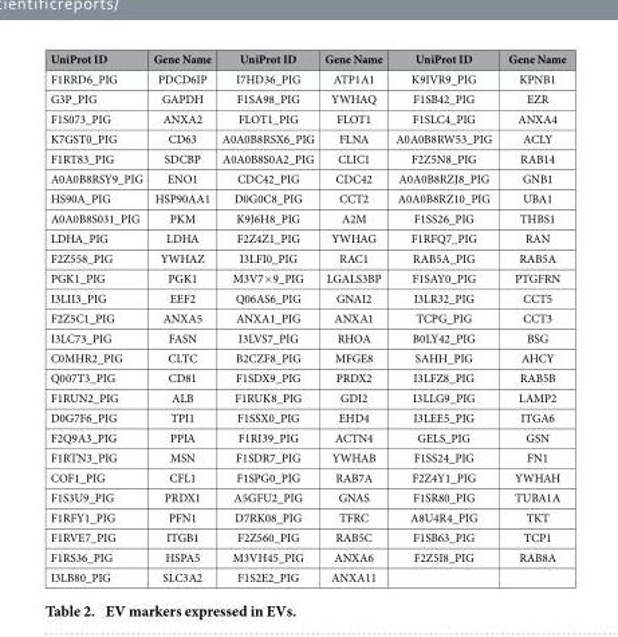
<table><thead><tr><td>UniProt ID</td><td>Gene Name</td><td>UniProt ID</td><td>Gene Name</td><td>UniProt ID</td><td>Gene Name</td></tr></thead><tbody><tr><td>F1RRD6_PIG</td><td>PDCD6IP</td><td>I7HD36_PIG</td><td>ATP1A1</td><td>K9IVR9_PIG</td><td>KPNB1</td></tr><tr><td>G3P_PIG</td><td>GAPDH</td><td>F1SA98_PIG</td><td>YWHAQ</td><td>F1SB42_PIG</td><td>EZR</td></tr><tr><td>F1S073_PIG</td><td>ANXA2</td><td>FLOT1_PIG</td><td>FLOT1</td><td>F1SLC4_PIG</td><td>ANXA4</td></tr><tr><td>K7GST0_PIG</td><td>CD63</td><td>A0A0B8RSX6_PIG</td><td>FLNA</td><td>A0A0B8RW53_PIG</td><td>ACLY</td></tr><tr><td>F1RT83_PIG</td><td>SDCBP</td><td>A0A0B8S0A2_PIG</td><td>CLIC1</td><td>F2Z5N8_PIG</td><td>RAB14</td></tr><tr><td>A0A0B8RSY9_PIG</td><td>ENO1</td><td>CDC42_PIG</td><td>CDC42</td><td>A0A0B8RZJ8_PIG</td><td>GNB1</td></tr><tr><td>HS90A_PIG</td><td>HSP90AA1</td><td>D0G0C8_PIG</td><td>CCT2</td><td>A0A0B8RZ10_PIG</td><td>UBA1</td></tr><tr><td>A0A0B8S031_PIG</td><td>PKM</td><td>K9J6H8_PIG</td><td>A2M</td><td>F1SS26_PIG</td><td>THBS1</td></tr><tr><td>LDHA_PIG</td><td>LDHA</td><td>F2Z4Z1_PIG</td><td>YWHAG</td><td>F1RFQ7_PIG</td><td>RAN</td></tr><tr><td>F2Z558_PIG</td><td>YWHAZ</td><td>I3LFI0_PIG</td><td>RAC1</td><td>RAB5A_PIG</td><td>RAB5A</td></tr><tr><td>PGK1_PIG</td><td>PGK1</td><td>M3V7× 9_PIG</td><td>LGALS3BP</td><td>F1SAY0_PIG</td><td>PTGFRN</td></tr><tr><td>I3LII3_PIG</td><td>EEF2</td><td>Q06AS6_PIG</td><td>GNAI2</td><td>I3LR32_PIG</td><td>CCT5</td></tr><tr><td>F2Z5C1_PIG</td><td>ANXA5</td><td>ANXA1_PIG</td><td>ANXA1</td><td>TCPG_PIG</td><td>CCT3</td></tr><tr><td>I3LC73_PIG</td><td>FASN</td><td>I3LVS7_PIG</td><td>RHOA</td><td>B0LY42_PIG</td><td>BSG</td></tr><tr><td>C0MHR2_PIG</td><td>CLTC</td><td>B2CZF8_PIG</td><td>MFGE8</td><td>SAHH_PIG</td><td>AHCY</td></tr><tr><td>Q007T3_PIG</td><td>CD81</td><td>F1SDX9_PIG</td><td>PRDX2</td><td>I3LFZ8_PIG</td><td>RAB5B</td></tr><tr><td>F1RUN2_PIG</td><td>ALB</td><td>F1RUK8_PIG</td><td>GDI2</td><td>I3LLG9_PIG</td><td>LAMP2</td></tr><tr><td>D0G7F6_PIG</td><td>TPI1</td><td>F1SSX0_PIG</td><td>EHD4</td><td>I3LEE5_PIG</td><td>ITGA6</td></tr><tr><td>F2Q9A3_PIG</td><td>PPIA</td><td>F1RI39_PIG</td><td>ACTN4</td><td>GELS_PIG</td><td>GSN</td></tr><tr><td>F1RTN3_PIG</td><td>MSN</td><td>F1SDR7_PIG</td><td>YWHAB</td><td>F1SS24_PIG</td><td>FN1</td></tr><tr><td>COF1_PIG</td><td>CFL1</td><td>F1SPG0_PIG</td><td>RAB7A</td><td>F2Z4Y1_PIG</td><td>YWHAH</td></tr><tr><td>F1S3U9_PIG</td><td>PRDX1</td><td>A5GFU2_PIG</td><td>GNAS</td><td>F1SR80_PIG</td><td>TUBA1A</td></tr><tr><td>F1RFY1_PIG</td><td>PFN1</td><td>D7RK08_PIG</td><td>TFRC</td><td>A8U4R4_PIG</td><td>TKT</td></tr><tr><td>F1RVE7_PIG</td><td>ITGB1</td><td>F2Z560_PIG</td><td>RAB5C</td><td>F1SB63_PIG</td><td>TCP1</td></tr><tr><td>F1RS36_PIG</td><td>HSPA5</td><td>M3VH45_PIG</td><td>ANXA6</td><td>F2Z5I8_PIG</td><td>RAB8A</td></tr><tr><td>I3LB80_PIG</td><td>SLC3A2</td><td>F1S2E2_PIG</td><td>ANXA11</td><td></td><td></td></tr></tbody></table>